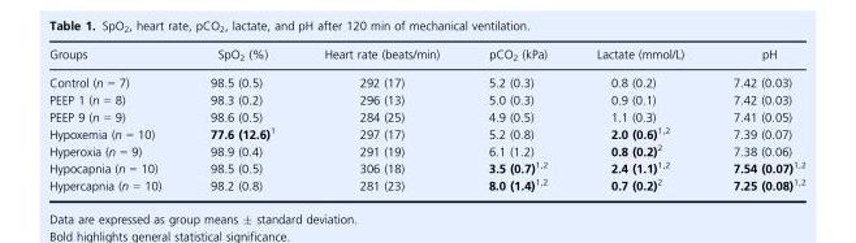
<table><thead><tr><td>Groups</td><td>SpO<sub>2</sub> (%)</td><td>Heart rate (beats/min)</td><td>pCO<sub>2</sub> (kPa)</td><td>Lactate (mmol/L)</td><td>pH</td></tr></thead><tbody><tr><td>Control (n = 7)</td><td>98.5 (0.5)</td><td>292 (17)</td><td>5.2 (0.3)</td><td>0.8 (0.2)</td><td>7.42 (0.03)</td></tr><tr><td>PEEP 1 (n = 8)</td><td>98.3 (0.2)</td><td>296 (13)</td><td>5.0 (0.3)</td><td>0.9 (0.1)</td><td>7.42 (0.03)</td></tr><tr><td>PEEP 9 (n = 9)</td><td>98.6 (0.5)</td><td>284 (25)</td><td>4.9 (0.5)</td><td>1.1 (0.3)</td><td>7.41 (0.05)</td></tr><tr><td>Hypoxemia (n = 10)</td><td>77.6 (12.6)1</td><td>297 (17)</td><td>5.2 (0.8)</td><td>2.0 (0.6)1,2</td><td>7.39 (0.07)</td></tr><tr><td>Hyperoxia (n = 9)</td><td>98.9 (0.4)</td><td>291 (19)</td><td>6.1 (1.2)</td><td>0.8 (0.2)2</td><td>7.38 (0.06)</td></tr><tr><td>Hypocapnia (n = 10)</td><td>98.5 (0.5)</td><td>306 (18)</td><td>3.5 (0.7)1,2</td><td>2.4 (1.1)1,2</td><td>7.54 (0.07)1,2</td></tr><tr><td>Hypercapnia (n = 10)</td><td>98.2 (0.8)</td><td>281 (23)</td><td>8.0 (1.4)1,2</td><td>0.7 (0.2)2</td><td>7.25 (0.08)1,2</td></tr></tbody></table>